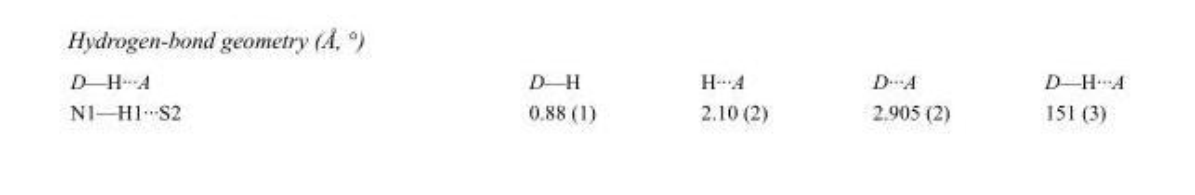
<table><tbody><tr><td>D—H···A</td><td>D—H</td><td>H···A</td><td>D···A</td><td>D—H···A</td></tr><tr><td>N1—H1···S2</td><td>0.88 (1)</td><td>2.10 (2)</td><td>2.905 (2)</td><td>151 (3)</td></tr></tbody></table>